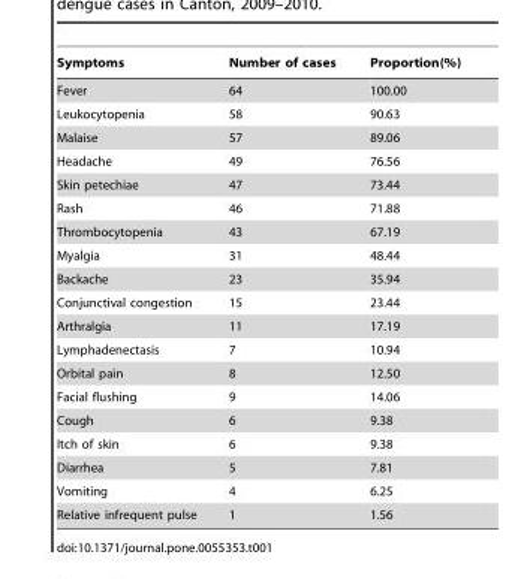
<table><thead><tr><td>Symptoms</td><td>Number of cases</td><td>Proportion(%)</td></tr></thead><tbody><tr><td>Fever</td><td>64</td><td>100.00</td></tr><tr><td>Leukocytopenia</td><td>58</td><td>90.63</td></tr><tr><td>Malaise</td><td>57</td><td>89.06</td></tr><tr><td>Headache</td><td>49</td><td>76.56</td></tr><tr><td>Skin petechiae</td><td>47</td><td>73.44</td></tr><tr><td>Rash</td><td>46</td><td>71.88</td></tr><tr><td>Thrombocytopenia</td><td>43</td><td>67.19</td></tr><tr><td>Myalgia</td><td>31</td><td>48.44</td></tr><tr><td>Backache</td><td>23</td><td>35.94</td></tr><tr><td>Conjunctival congestion</td><td>15</td><td>23.44</td></tr><tr><td>Arthralgia</td><td>11</td><td>17.19</td></tr><tr><td>Lymphadenectasis</td><td>7</td><td>10.94</td></tr><tr><td>Orbital pain</td><td>8</td><td>12.50</td></tr><tr><td>Facial flushing</td><td>9</td><td>14.06</td></tr><tr><td>Cough</td><td>6</td><td>9.38</td></tr><tr><td>Itch of skin</td><td>6</td><td>9.38</td></tr><tr><td>Diarrhea</td><td>5</td><td>7.81</td></tr><tr><td>Vomiting</td><td>4</td><td>6.25</td></tr><tr><td>Relative infrequent pulse</td><td>1</td><td>1.56</td></tr></tbody></table>